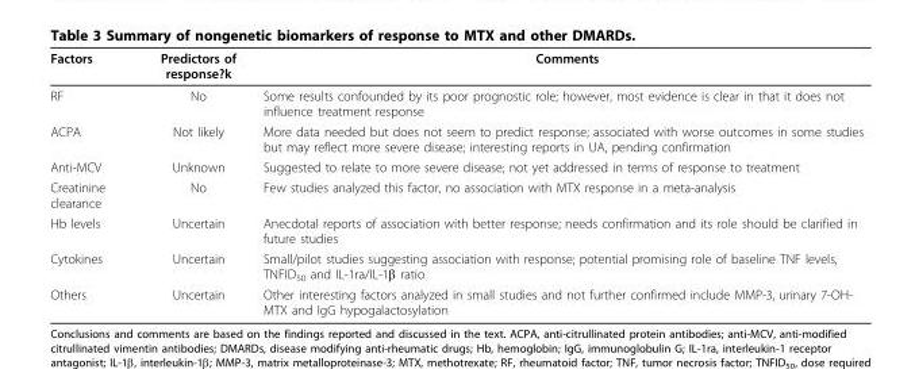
<table><thead><tr><td>Factors</td><td>Predictors of response?k</td><td>Comments</td></tr></thead><tbody><tr><td>RF</td><td>No</td><td>Some results confounded by its poor prognostic role; however, most evidence is clear in that it does not influence treatment response</td></tr><tr><td>ACPA</td><td>Not likely</td><td>More data needed but does not seem to predict response; associated with worse outcomes in some studies but may reflect more severe disease; interesting reports in UA, pending confirmation</td></tr><tr><td>Anti-MCV</td><td>Unknown</td><td>Suggested to relate to more severe disease; not yet addressed in terms of response to treatment</td></tr><tr><td>Creatinine clearance</td><td>No</td><td>Few studies analyzed this factor, no association with MTX response in a meta-analysis</td></tr><tr><td>Hb levels</td><td>Uncertain</td><td>Anecdotal reports of association with better response; needs confirmation and its role should be clarified in future studies</td></tr><tr><td>Cytokines</td><td>Uncertain</td><td>Small/pilot studies suggesting association with response; potential promising role of baseline TNF levels, TNFID<sub>50</sub> and IL-1ra/IL-1β ratio</td></tr><tr><td>Others</td><td>Uncertain</td><td>Other interesting factors analyzed in small studies and not further confirmed include MMP-3, urinary 7-OH- MTX and IgG hypogalactosylation</td></tr></tbody></table>